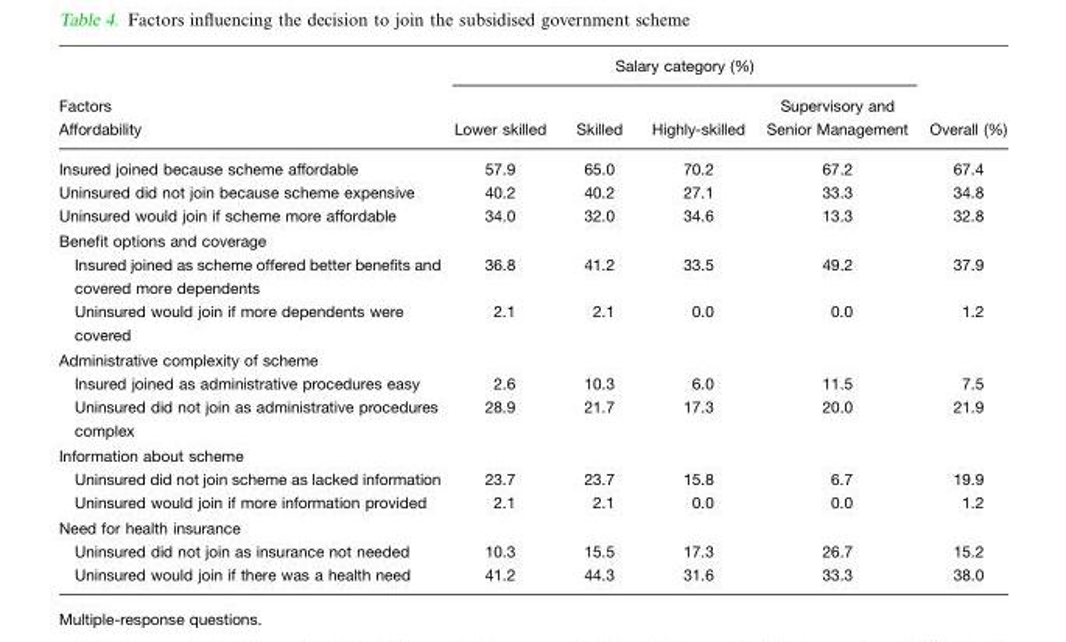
<table><thead><tr><td rowspan="2">Factors Affordability</td><td colspan="4">Salary category (%)</td><td rowspan="2">Overall (%)</td></tr><tr><td>Lower skilled</td><td>Skilled</td><td>Highly-skilled</td><td>Supervisory and Senior Management</td></tr></thead><tbody><tr><td>Insured joined because scheme affordable</td><td>57.9</td><td>65.0</td><td>70.2</td><td>67.2</td><td>67.4</td></tr><tr><td>Uninsured did not join because scheme expensive</td><td>40.2</td><td>40.2</td><td>27.1</td><td>33.3</td><td>34.8</td></tr><tr><td>Uninsured would join if scheme more affordable</td><td>34.0</td><td>32.0</td><td>34.6</td><td>13.3</td><td>32.8</td></tr><tr><td colspan="6">Benefit options and coverage</td></tr><tr><td>Insured joined as scheme offered better benefits and covered more dependents</td><td>36.8</td><td>41.2</td><td>33.5</td><td>49.2</td><td>37.9</td></tr><tr><td>Uninsured would join if more dependents were covered</td><td>2.1</td><td>2.1</td><td>0.0</td><td>0.0</td><td>1.2</td></tr><tr><td colspan="6">Administrative complexity of scheme</td></tr><tr><td>Insured joined as administrative procedures easy</td><td>2.6</td><td>10.3</td><td>6.0</td><td>11.5</td><td>7.5</td></tr><tr><td>Uninsured did not join as administrative procedures complex</td><td>28.9</td><td>21.7</td><td>17.3</td><td>20.0</td><td>21.9</td></tr><tr><td colspan="6">Information about scheme</td></tr><tr><td>Uninsured did not join scheme as lacked information</td><td>23.7</td><td>23.7</td><td>15.8</td><td>6.7</td><td>19.9</td></tr><tr><td>Uninsured would join if more information provided</td><td>2.1</td><td>2.1</td><td>0.0</td><td>0.0</td><td>1.2</td></tr><tr><td colspan="6">Need for health insurance</td></tr><tr><td>Uninsured did not join as insurance not needed</td><td>10.3</td><td>15.5</td><td>17.3</td><td>26.7</td><td>15.2</td></tr><tr><td>Uninsured would join if there was a health need</td><td>41.2</td><td>44.3</td><td>31.6</td><td>33.3</td><td>38.0</td></tr></tbody></table>